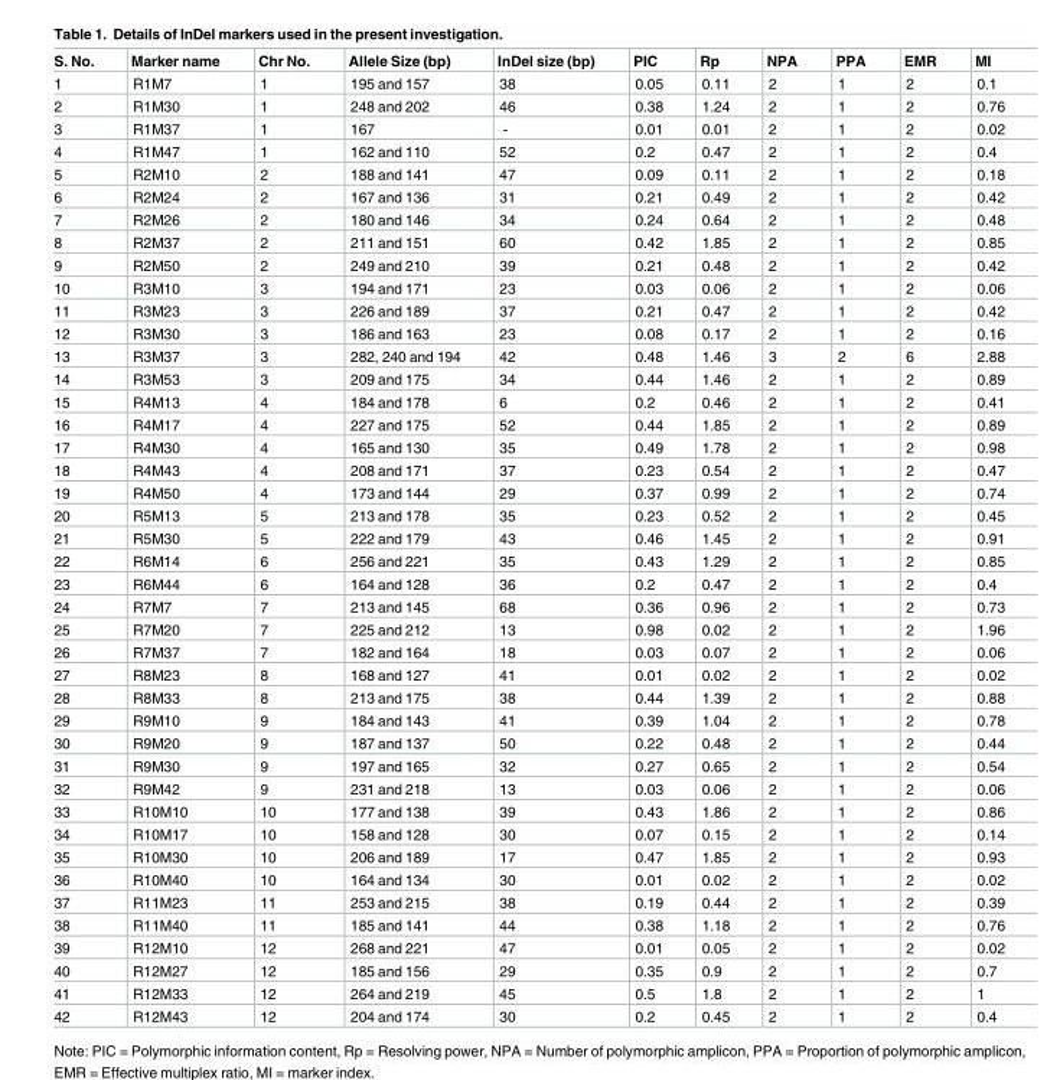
<table><thead><tr><td>S. No.</td><td>Marker name</td><td>Chr No.</td><td>Allele Size (bp)</td><td>InDel size (bp)</td><td>PIC</td><td>Rp</td><td>NPA</td><td>PPA</td><td>EMR</td><td>MI</td></tr></thead><tbody><tr><td>1</td><td>R1M7</td><td>1</td><td>195 and 157</td><td>38</td><td>0.05</td><td>0.11</td><td>2</td><td>1</td><td>2</td><td>0.1</td></tr><tr><td>2</td><td>R1M30</td><td>1</td><td>248 and 202</td><td>46</td><td>0.38</td><td>1.24</td><td>2</td><td>1</td><td>2</td><td>0.76</td></tr><tr><td>3</td><td>R1M37</td><td>1</td><td>167</td><td>-</td><td>0.01</td><td>0.01</td><td>2</td><td>1</td><td>2</td><td>0.02</td></tr><tr><td>4</td><td>R1M47</td><td>1</td><td>162 and 110</td><td>52</td><td>0.2</td><td>0.47</td><td>2</td><td>1</td><td>2</td><td>0.4</td></tr><tr><td>5</td><td>R2M10</td><td>2</td><td>188 and 141</td><td>47</td><td>0.09</td><td>0.11</td><td>2</td><td>1</td><td>2</td><td>0.18</td></tr><tr><td>6</td><td>R2M24</td><td>2</td><td>167 and 136</td><td>31</td><td>0.21</td><td>0.49</td><td>2</td><td>1</td><td>2</td><td>0.42</td></tr><tr><td>7</td><td>R2M26</td><td>2</td><td>180 and 146</td><td>34</td><td>0.24</td><td>0.64</td><td>2</td><td>1</td><td>2</td><td>0.48</td></tr><tr><td>8</td><td>R2M37</td><td>2</td><td>211 and 151</td><td>60</td><td>0.42</td><td>1.85</td><td>2</td><td>1</td><td>2</td><td>0.85</td></tr><tr><td>9</td><td>R2M50</td><td>2</td><td>249 and 210</td><td>39</td><td>0.21</td><td>0.48</td><td>2</td><td>1</td><td>2</td><td>0.42</td></tr><tr><td>10</td><td>R3M10</td><td>3</td><td>194 and 171</td><td>23</td><td>0.03</td><td>0.06</td><td>2</td><td>1</td><td>2</td><td>0.06</td></tr><tr><td>11</td><td>R3M23</td><td>3</td><td>226 and 189</td><td>37</td><td>0.21</td><td>0.47</td><td>2</td><td>1</td><td>2</td><td>0.42</td></tr><tr><td>12</td><td>R3M30</td><td>3</td><td>186 and 163</td><td>23</td><td>0.08</td><td>0.17</td><td>2</td><td>1</td><td>2</td><td>0.16</td></tr><tr><td>13</td><td>R3M37</td><td>3</td><td>282, 240 and 194</td><td>42</td><td>0.48</td><td>1.46</td><td>3</td><td>2</td><td>6</td><td>2.88</td></tr><tr><td>14</td><td>R3M53</td><td>3</td><td>209 and 175</td><td>34</td><td>0.44</td><td>1.46</td><td>2</td><td>1</td><td>2</td><td>0.89</td></tr><tr><td>15</td><td>R4M13</td><td>4</td><td>184 and 178</td><td>6</td><td>0.2</td><td>0.46</td><td>2</td><td>1</td><td>2</td><td>0.41</td></tr><tr><td>16</td><td>R4M17</td><td>4</td><td>227 and 175</td><td>52</td><td>0.44</td><td>1.85</td><td>2</td><td>1</td><td>2</td><td>0.89</td></tr><tr><td>17</td><td>R4M30</td><td>4</td><td>165 and 130</td><td>35</td><td>0.49</td><td>1.78</td><td>2</td><td>1</td><td>2</td><td>0.98</td></tr><tr><td>18</td><td>R4M43</td><td>4</td><td>208 and 171</td><td>37</td><td>0.23</td><td>0.54</td><td>2</td><td>1</td><td>2</td><td>0.47</td></tr><tr><td>19</td><td>R4M50</td><td>4</td><td>173 and 144</td><td>29</td><td>0.37</td><td>0.99</td><td>2</td><td>1</td><td>2</td><td>0.74</td></tr><tr><td>20</td><td>R5M13</td><td>5</td><td>213 and 178</td><td>35</td><td>0.23</td><td>0.52</td><td>2</td><td>1</td><td>2</td><td>0.45</td></tr><tr><td>21</td><td>R5M30</td><td>5</td><td>222 and 179</td><td>43</td><td>0.46</td><td>1.45</td><td>2</td><td>1</td><td>2</td><td>0.91</td></tr><tr><td>22</td><td>R6M14</td><td>6</td><td>256 and 221</td><td>35</td><td>0.43</td><td>1.29</td><td>2</td><td>1</td><td>2</td><td>0.85</td></tr><tr><td>23</td><td>R6M44</td><td>6</td><td>164 and 128</td><td>36</td><td>0.2</td><td>0.47</td><td>2</td><td>1</td><td>2</td><td>0.4</td></tr><tr><td>24</td><td>R7M7</td><td>7</td><td>213 and 145</td><td>68</td><td>0.36</td><td>0.96</td><td>2</td><td>1</td><td>2</td><td>0.73</td></tr><tr><td>25</td><td>R7M20</td><td>7</td><td>225 and 212</td><td>13</td><td>0.98</td><td>0.02</td><td>2</td><td>1</td><td>2</td><td>1.96</td></tr><tr><td>26</td><td>R7M37</td><td>7</td><td>182 and 164</td><td>18</td><td>0.03</td><td>0.07</td><td>2</td><td>1</td><td>2</td><td>0.06</td></tr><tr><td>27</td><td>R8M23</td><td>8</td><td>168 and 127</td><td>41</td><td>0.01</td><td>0.02</td><td>2</td><td>1</td><td>2</td><td>0.02</td></tr><tr><td>28</td><td>R8M33</td><td>8</td><td>213 and 175</td><td>38</td><td>0.44</td><td>1.39</td><td>2</td><td>1</td><td>2</td><td>0.88</td></tr><tr><td>29</td><td>R9M10</td><td>9</td><td>184 and 143</td><td>41</td><td>0.39</td><td>1.04</td><td>2</td><td>1</td><td>2</td><td>0.78</td></tr><tr><td>30</td><td>R9M20</td><td>9</td><td>187 and 137</td><td>50</td><td>0.22</td><td>0.48</td><td>2</td><td>1</td><td>2</td><td>0.44</td></tr><tr><td>31</td><td>R9M30</td><td>9</td><td>197 and 165</td><td>32</td><td>0.27</td><td>0.65</td><td>2</td><td>1</td><td>2</td><td>0.54</td></tr><tr><td>32</td><td>R9M42</td><td>9</td><td>231 and 218</td><td>13</td><td>0.03</td><td>0.06</td><td>2</td><td>1</td><td>2</td><td>0.06</td></tr><tr><td>33</td><td>R10M10</td><td>10</td><td>177 and 138</td><td>39</td><td>0.43</td><td>1.86</td><td>2</td><td>1</td><td>2</td><td>0.86</td></tr><tr><td>34</td><td>R10M17</td><td>10</td><td>158 and 128</td><td>30</td><td>0.07</td><td>0.15</td><td>2</td><td>1</td><td>2</td><td>0.14</td></tr><tr><td>35</td><td>R10M30</td><td>10</td><td>206 and 189</td><td>17</td><td>0.47</td><td>1.85</td><td>2</td><td>1</td><td>2</td><td>0.93</td></tr><tr><td>36</td><td>R10M40</td><td>10</td><td>164 and 134</td><td>30</td><td>0.01</td><td>0.02</td><td>2</td><td>1</td><td>2</td><td>0.02</td></tr><tr><td>37</td><td>R11M23</td><td>11</td><td>253 and 215</td><td>38</td><td>0.19</td><td>0.44</td><td>2</td><td>1</td><td>2</td><td>0.39</td></tr><tr><td>38</td><td>R11M40</td><td>11</td><td>185 and 141</td><td>44</td><td>0.38</td><td>1.18</td><td>2</td><td>1</td><td>2</td><td>0.76</td></tr><tr><td>39</td><td>R12M10</td><td>12</td><td>268 and 221</td><td>47</td><td>0.01</td><td>0.05</td><td>2</td><td>1</td><td>2</td><td>0.02</td></tr><tr><td>40</td><td>R12M27</td><td>12</td><td>185 and 156</td><td>29</td><td>0.35</td><td>0.9</td><td>2</td><td>1</td><td>2</td><td>0.7</td></tr><tr><td>41</td><td>R12M33</td><td>12</td><td>264 and 219</td><td>45</td><td>0.5</td><td>1.8</td><td>2</td><td>1</td><td>2</td><td>1</td></tr><tr><td>42</td><td>R12M43</td><td>12</td><td>204 and 174</td><td>30</td><td>0.2</td><td>0.45</td><td>2</td><td>1</td><td>2</td><td>0.4</td></tr></tbody></table>